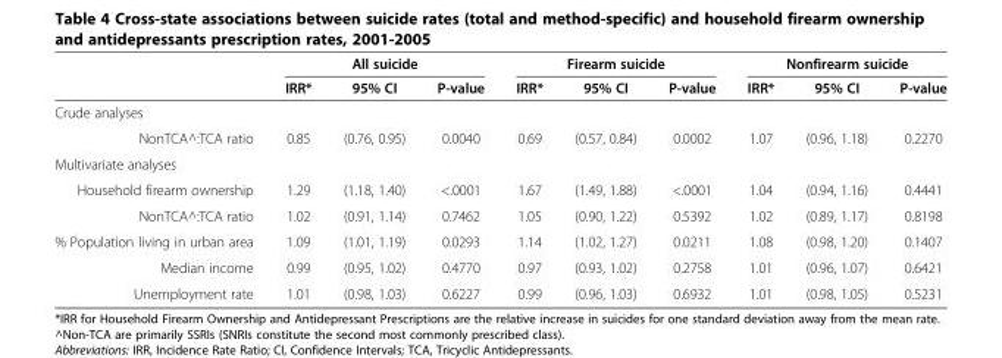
<table><thead><tr><td rowspan="2"></td><td colspan="3">All suicide</td><td colspan="3">Firearm suicide</td><td colspan="3">Nonfirearm suicide</td></tr><tr><td>IRR*</td><td>95% CI</td><td>P-value</td><td>IRR*</td><td>95% CI</td><td>P-value</td><td>IRR*</td><td>95% CI</td><td>P-value</td></tr></thead><tbody><tr><td colspan="10">Crude analyses</td></tr><tr><td>NonTCA^:TCA ratio</td><td>0.85</td><td>(0.76, 0.95)</td><td>0.0040</td><td>0.69</td><td>(0.57, 0.84)</td><td>0.0002</td><td>1.07</td><td>(0.96, 1.18)</td><td>0.2270</td></tr><tr><td colspan="10">Multivariate analyses</td></tr><tr><td>Household firearm ownership</td><td>1.29</td><td>(1.18, 1.40)</td><td>&lt;.0001</td><td>1.67</td><td>(1.49, 1.88)</td><td>&lt;.0001</td><td>1.04</td><td>(0.94, 1.16)</td><td>0.4441</td></tr><tr><td>NonTCA^:TCA ratio</td><td>1.02</td><td>(0.91, 1.14)</td><td>0.7462</td><td>1.05</td><td>(0.90, 1.22)</td><td>0.5392</td><td>1.02</td><td>(0.89, 1.17)</td><td>0.8198</td></tr><tr><td>% Population living in urban area</td><td>1.09</td><td>(1.01, 1.19)</td><td>0.0293</td><td>1.14</td><td>(1.02, 1.27)</td><td>0.0211</td><td>1.08</td><td>(0.98, 1.20)</td><td>0.1407</td></tr><tr><td>Median income</td><td>0.99</td><td>(0.95, 1.02)</td><td>0.4770</td><td>0.97</td><td>(0.93, 1.02)</td><td>0.2758</td><td>1.01</td><td>(0.96, 1.07)</td><td>0.6421</td></tr><tr><td>Unemployment rate</td><td>1.01</td><td>(0.98, 1.03)</td><td>0.6227</td><td>0.99</td><td>(0.96, 1.03)</td><td>0.6932</td><td>1.01</td><td>(0.98, 1.05)</td><td>0.5231</td></tr></tbody></table>